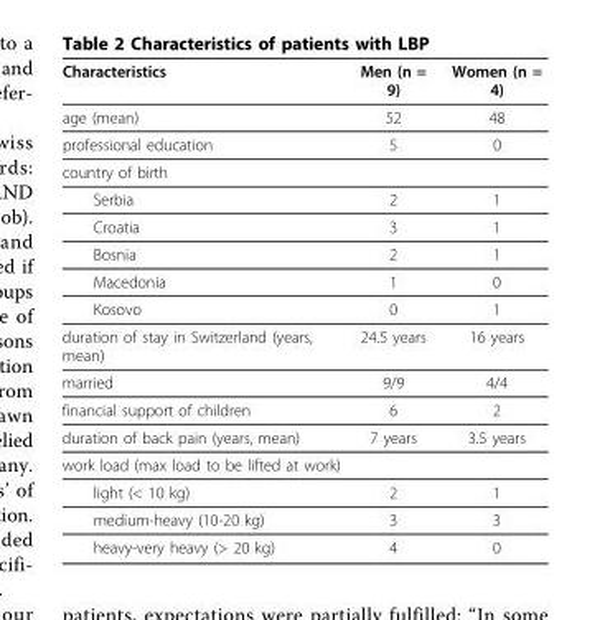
<table><thead><tr><td>Characteristics</td><td>Men (n = 9)</td><td>Women (n = 4)</td></tr></thead><tbody><tr><td>age (mean)</td><td>52</td><td>48</td></tr><tr><td>professional education</td><td>5</td><td>0</td></tr><tr><td colspan="3">country of birth</td></tr><tr><td>Serbia</td><td>2</td><td>1</td></tr><tr><td>Croatia</td><td>3</td><td>1</td></tr><tr><td>Bosnia</td><td>2</td><td>1</td></tr><tr><td>Macedonia</td><td>1</td><td>0</td></tr><tr><td>Kosovo</td><td>0</td><td>1</td></tr><tr><td>duration of stay in Switzerland (years, mean)</td><td>24.5 years</td><td>16 years</td></tr><tr><td>married</td><td>9/9</td><td>4/4</td></tr><tr><td>financial support of children</td><td>6</td><td>2</td></tr><tr><td>duration of back pain (years, mean)</td><td>7 years</td><td>3.5 years</td></tr><tr><td colspan="3">work load (max load to be lifted at work)</td></tr><tr><td>light (&lt; 10 kg)</td><td>2</td><td>1</td></tr><tr><td>medium-heavy (10-20 kg)</td><td>3</td><td>3</td></tr><tr><td>heavy-very heavy (&gt; 20 kg)</td><td>4</td><td>0</td></tr></tbody></table>